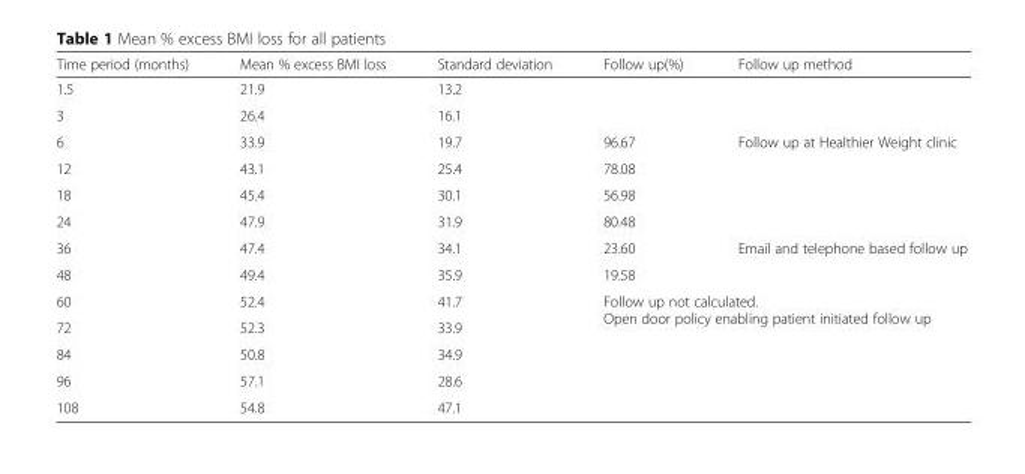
<table><thead><tr><td>Time period (months)</td><td>Mean % excess BMI loss</td><td>Standard deviation</td><td>Follow up(%)</td><td>Follow up method</td></tr></thead><tbody><tr><td>1.5</td><td>21.9</td><td>13.2</td><td></td><td></td></tr><tr><td>3</td><td>26.4</td><td>16.1</td><td></td><td></td></tr><tr><td>6</td><td>33.9</td><td>19.7</td><td>96.67</td><td rowspan="4">Follow up at Healthier Weight clinic</td></tr><tr><td>12</td><td>43.1</td><td>25.4</td><td>78.08</td></tr><tr><td>18</td><td>45.4</td><td>30.1</td><td>56.98</td></tr><tr><td>24</td><td>47.9</td><td>31.9</td><td>80.48</td></tr><tr><td>36</td><td>47.4</td><td>34.1</td><td>23.60</td><td rowspan="2">Email and telephone based follow up</td></tr><tr><td>48</td><td>49.4</td><td>35.9</td><td>19.58</td></tr><tr><td>60</td><td>52.4</td><td>41.7</td><td rowspan="5" colspan="2">Follow up not calculated. Open door policy enabling patient initiated follow up</td></tr><tr><td>72</td><td>52.3</td><td>33.9</td></tr><tr><td>84</td><td>50.8</td><td>34.9</td></tr><tr><td>96</td><td>57.1</td><td>28.6</td></tr><tr><td>108</td><td>54.8</td><td>47.1</td></tr></tbody></table>